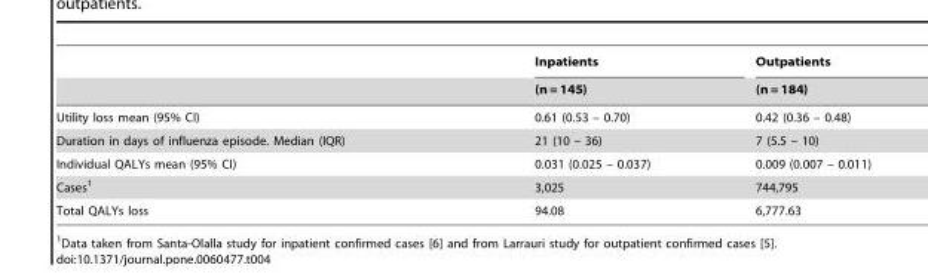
<table><thead><tr><td rowspan="2"></td><td rowspan="2">Inpatients (n = 145)</td><td rowspan="2">Outpatients (n = 184)</td></tr><tr></tr></thead><tbody><tr><td>Utility loss mean (95% CI)</td><td>0.61 (0.53 – 0.70)</td><td>0.42 (0.36 – 0.48)</td></tr><tr><td>Duration in days of influenza episode. Median (IQR)</td><td>21 (10 – 36)</td><td>7 (5.5 – 10)</td></tr><tr><td>Individual QALYs mean (95% CI)</td><td>0.031 (0.025 – 0.037)</td><td>0.009 (0.007 – 0.011)</td></tr><tr><td>Cases<sup>1</sup></td><td>3,025</td><td>744,795</td></tr><tr><td>Total QALYs loss</td><td>94.08</td><td>6,777.63</td></tr></tbody></table>